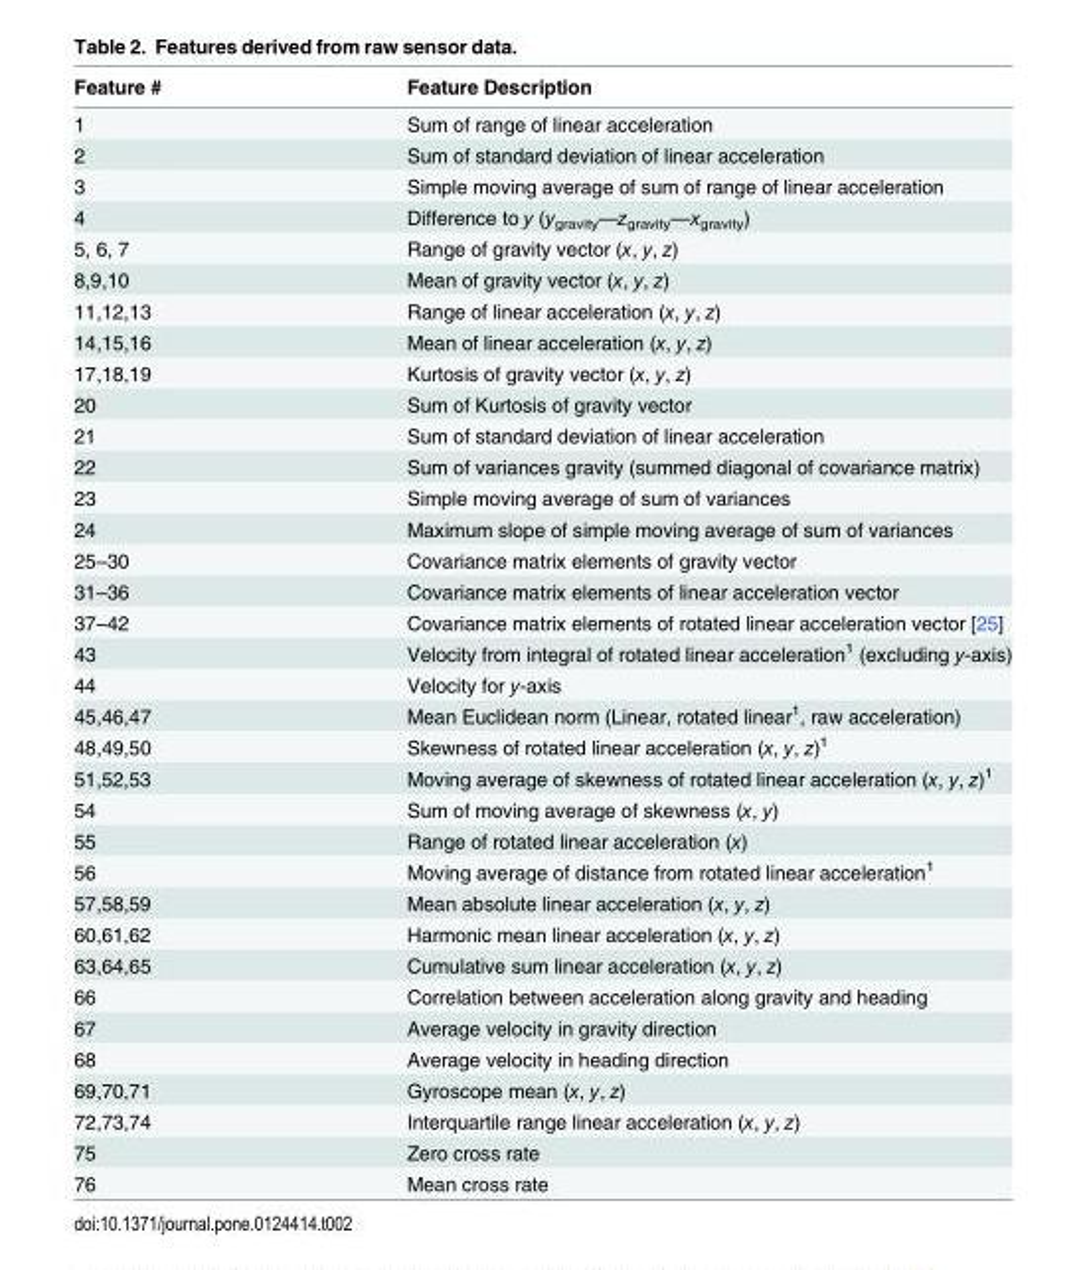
<table><thead><tr><td>Feature #</td><td>Feature Description</td></tr></thead><tbody><tr><td>1</td><td>Sum of range of linear acceleration</td></tr><tr><td>2</td><td>Sum of standard deviation of linear acceleration</td></tr><tr><td>3</td><td>Simple moving average of sum of range of linear acceleration</td></tr><tr><td>4</td><td>Difference to y (y<sub>gravity</sub>—z<sub>gravity</sub>—x<sub>gravity</sub>)</td></tr><tr><td>5, 6, 7</td><td>Range of gravity vector (x, y, z)</td></tr><tr><td>8,9,10</td><td>Mean of gravity vector (x, y, z)</td></tr><tr><td>11,12,13</td><td>Range of linear acceleration (x, y, z)</td></tr><tr><td>14,15,16</td><td>Mean of linear acceleration (x, y, z)</td></tr><tr><td>17,18,19</td><td>Kurtosis of gravity vector (x, y, z)</td></tr><tr><td>20</td><td>Sum of Kurtosis of gravity vector</td></tr><tr><td>21</td><td>Sum of standard deviation of linear acceleration</td></tr><tr><td>22</td><td>Sum of variances gravity (summed diagonal of covariance matrix)</td></tr><tr><td>23</td><td>Simple moving average of sum of variances</td></tr><tr><td>24</td><td>Maximum slope of simple moving average of sum of variances</td></tr><tr><td>25–30</td><td>Covariance matrix elements of gravity vector</td></tr><tr><td>31–36</td><td>Covariance matrix elements of linear acceleration vector</td></tr><tr><td>37–42</td><td>Covariance matrix elements of rotated linear acceleration vector [25]</td></tr><tr><td>43</td><td>Velocity from integral of rotated linear acceleration<sup>1</sup> (excluding y-axis)</td></tr><tr><td>44</td><td>Velocity for y-axis</td></tr><tr><td>45,46,47</td><td>Mean Euclidean norm (Linear, rotated linear<sup>1</sup>, raw acceleration)</td></tr><tr><td>48,49,50</td><td>Skewness of rotated linear acceleration (x, y, z)<sup>1</sup></td></tr><tr><td>51,52,53</td><td>Moving average of skewness of rotated linear acceleration (x, y, z)<sup>1</sup></td></tr><tr><td>54</td><td>Sum of moving average of skewness (x, y)</td></tr><tr><td>55</td><td>Range of rotated linear acceleration (x)</td></tr><tr><td>56</td><td>Moving average of distance from rotated linear acceleration<sup>1</sup></td></tr><tr><td>57,58,59</td><td>Mean absolute linear acceleration (x, y, z)</td></tr><tr><td>60,61,62</td><td>Harmonic mean linear acceleration (x, y, z)</td></tr><tr><td>63,64,65</td><td>Cumulative sum linear acceleration (x, y, z)</td></tr><tr><td>66</td><td>Correlation between acceleration along gravity and heading</td></tr><tr><td>67</td><td>Average velocity in gravity direction</td></tr><tr><td>68</td><td>Average velocity in heading direction</td></tr><tr><td>69,70,71</td><td>Gyroscope mean (x, y, z)</td></tr><tr><td>72,73,74</td><td>Interquartile range linear acceleration (x, y, z)</td></tr><tr><td>75</td><td>Zero cross rate</td></tr><tr><td>76</td><td>Mean cross rate</td></tr></tbody></table>